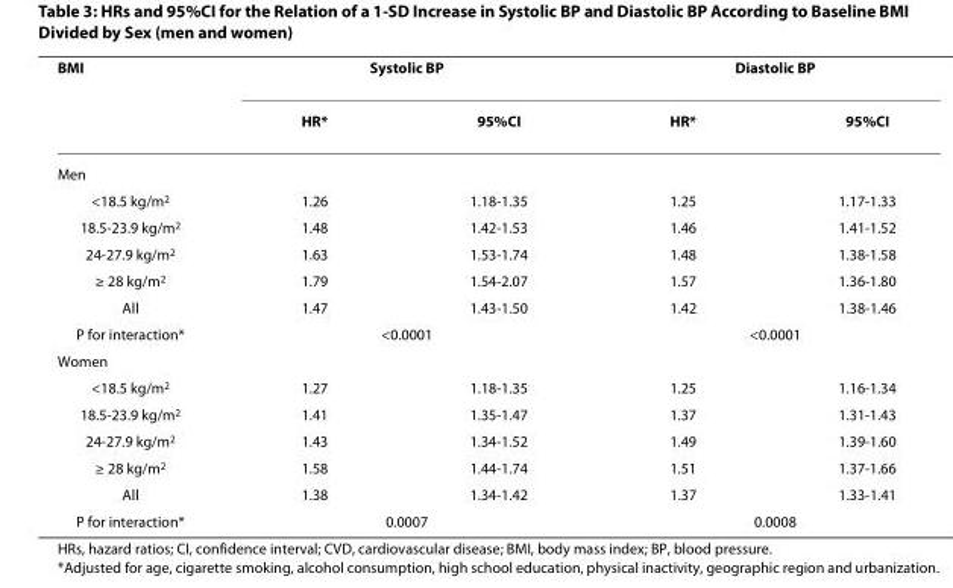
<table><thead><tr><td rowspan="2">BMI</td><td colspan="2">Systolic BP</td><td colspan="2">Diastolic BP</td></tr><tr><td>HR*</td><td>95%CI</td><td>HR*</td><td>95%CI</td></tr></thead><tbody><tr><td colspan="5">Men</td></tr><tr><td>&lt;18.5 kg/m<sup>2</sup></td><td>1.26</td><td>1.18-1.35</td><td>1.25</td><td>1.17-1.33</td></tr><tr><td>18.5-23.9 kg/m<sup>2</sup></td><td>1.48</td><td>1.42-1.53</td><td>1.46</td><td>1.41-1.52</td></tr><tr><td>24-27.9 kg/m<sup>2</sup></td><td>1.63</td><td>1.53-1.74</td><td>1.48</td><td>1.38-1.58</td></tr><tr><td>≥ 28 kg/m<sup>2</sup></td><td>1.79</td><td>1.54-2.07</td><td>1.57</td><td>1.36-1.80</td></tr><tr><td>All</td><td>1.47</td><td>1.43-1.50</td><td>1.42</td><td>1.38-1.46</td></tr><tr><td>P for interaction*</td><td colspan="2">&lt;0.0001</td><td colspan="2">&lt;0.0001</td></tr><tr><td colspan="5">Women</td></tr><tr><td>&lt;18.5 kg/m<sup>2</sup></td><td>1.27</td><td>1.18-1.35</td><td>1.25</td><td>1.16-1.34</td></tr><tr><td>18.5-23.9 kg/m<sup>2</sup></td><td>1.41</td><td>1.35-1.47</td><td>1.37</td><td>1.31-1.43</td></tr><tr><td>24-27.9 kg/m<sup>2</sup></td><td>1.43</td><td>1.34-1.52</td><td>1.49</td><td>1.39-1.60</td></tr><tr><td>≥ 28 kg/m<sup>2</sup></td><td>1.58</td><td>1.44-1.74</td><td>1.51</td><td>1.37-1.66</td></tr><tr><td>All</td><td>1.38</td><td>1.34-1.42</td><td>1.37</td><td>1.33-1.41</td></tr><tr><td>P for interaction*</td><td colspan="2">0.0007</td><td colspan="2">0.0008</td></tr></tbody></table>